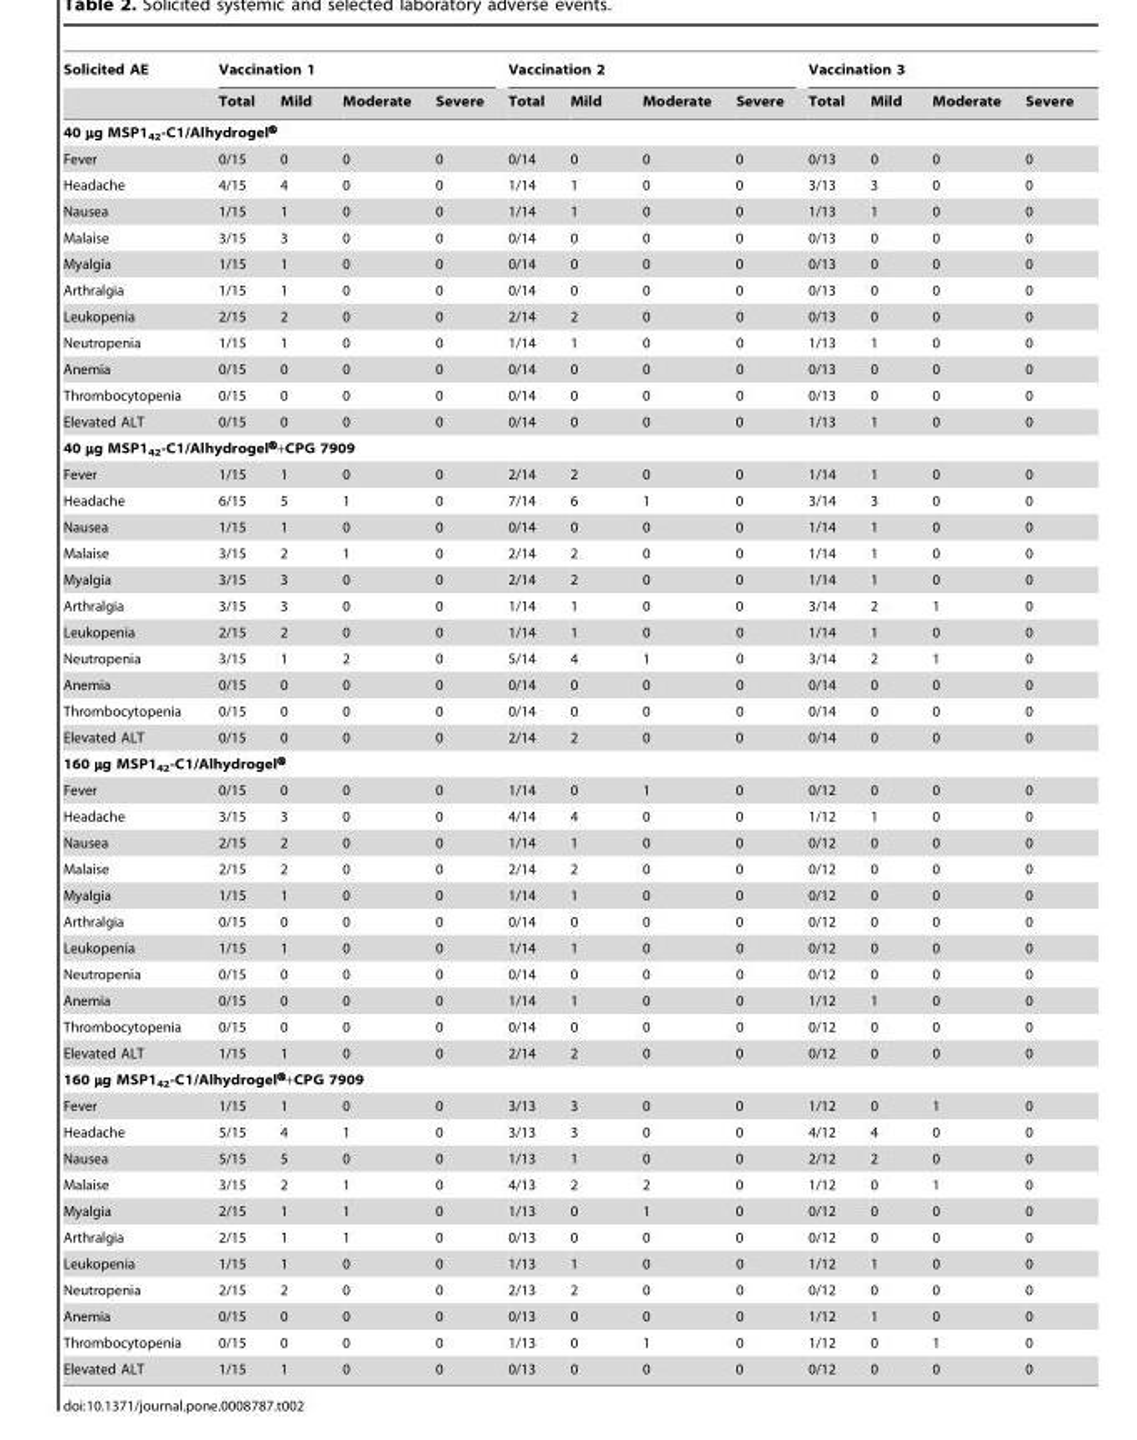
<table><thead><tr><td rowspan="2">Solicited AE</td><td colspan="4">Vaccination 1</td><td colspan="4">Vaccination 2</td><td colspan="4">Vaccination 3</td></tr><tr><td>Total</td><td>Mild</td><td>Moderate</td><td>Severe</td><td>Total</td><td>Mild</td><td>Moderate</td><td>Severe</td><td>Total</td><td>Mild</td><td>Moderate</td><td>Severe</td></tr></thead><tbody><tr><td colspan="13">40 µg MSP1<sub>42</sub>-C1/Alhydrogel®</td></tr><tr><td>Fever</td><td>0/15</td><td>0</td><td>0</td><td>0</td><td>0/14</td><td>0</td><td>0</td><td>0</td><td>0/13</td><td>0</td><td>0</td><td>0</td></tr><tr><td>Headache</td><td>4/15</td><td>4</td><td>0</td><td>0</td><td>1/14</td><td>1</td><td>0</td><td>0</td><td>3/13</td><td>3</td><td>0</td><td>0</td></tr><tr><td>Nausea</td><td>1/15</td><td>1</td><td>0</td><td>0</td><td>1/14</td><td>1</td><td>0</td><td>0</td><td>1/13</td><td>1</td><td>0</td><td>0</td></tr><tr><td>Malaise</td><td>3/15</td><td>3</td><td>0</td><td>0</td><td>0/14</td><td>0</td><td>0</td><td>0</td><td>0/13</td><td>0</td><td>0</td><td>0</td></tr><tr><td>Myalgia</td><td>1/15</td><td>1</td><td>0</td><td>0</td><td>0/14</td><td>0</td><td>0</td><td>0</td><td>0/13</td><td>0</td><td>0</td><td>0</td></tr><tr><td>Arthralgia</td><td>1/15</td><td>1</td><td>0</td><td>0</td><td>0/14</td><td>0</td><td>0</td><td>0</td><td>0/13</td><td>0</td><td>0</td><td>0</td></tr><tr><td>Leukopenia</td><td>2/15</td><td>2</td><td>0</td><td>0</td><td>2/14</td><td>2</td><td>0</td><td>0</td><td>0/13</td><td>0</td><td>0</td><td>0</td></tr><tr><td>Neutropenia</td><td>1/15</td><td>1</td><td>0</td><td>0</td><td>1/14</td><td>1</td><td>0</td><td>0</td><td>1/13</td><td>1</td><td>0</td><td>0</td></tr><tr><td>Anemia</td><td>0/15</td><td>0</td><td>0</td><td>0</td><td>0/14</td><td>0</td><td>0</td><td>0</td><td>0/13</td><td>0</td><td>0</td><td>0</td></tr><tr><td>Thrombocytopenia</td><td>0/15</td><td>0</td><td>0</td><td>0</td><td>0/14</td><td>0</td><td>0</td><td>0</td><td>0/13</td><td>0</td><td>0</td><td>0</td></tr><tr><td>Elevated ALT</td><td>0/15</td><td>0</td><td>0</td><td>0</td><td>0/14</td><td>0</td><td>0</td><td>0</td><td>1/13</td><td>1</td><td>0</td><td>0</td></tr><tr><td colspan="13">40 µg MSP1<sub>42</sub>-C1/Alhydrogel®+CPG 7909</td></tr><tr><td>Fever</td><td>1/15</td><td>1</td><td>0</td><td>0</td><td>2/14</td><td>2</td><td>0</td><td>0</td><td>1/14</td><td>1</td><td>0</td><td>0</td></tr><tr><td>Headache</td><td>6/15</td><td>5</td><td>1</td><td>0</td><td>7/14</td><td>6</td><td>1</td><td>0</td><td>3/14</td><td>3</td><td>0</td><td>0</td></tr><tr><td>Nausea</td><td>1/15</td><td>1</td><td>0</td><td>0</td><td>0/14</td><td>0</td><td>0</td><td>0</td><td>1/14</td><td>1</td><td>0</td><td>0</td></tr><tr><td>Malaise</td><td>3/15</td><td>2</td><td>1</td><td>0</td><td>2/14</td><td>2</td><td>0</td><td>0</td><td>1/14</td><td>1</td><td>0</td><td>0</td></tr><tr><td>Myalgia</td><td>3/15</td><td>3</td><td>0</td><td>0</td><td>2/14</td><td>2</td><td>0</td><td>0</td><td>1/14</td><td>1</td><td>0</td><td>0</td></tr><tr><td>Arthralgia</td><td>3/15</td><td>3</td><td>0</td><td>0</td><td>1/14</td><td>1</td><td>0</td><td>0</td><td>3/14</td><td>2</td><td>1</td><td>0</td></tr><tr><td>Leukopenia</td><td>2/15</td><td>2</td><td>0</td><td>0</td><td>1/14</td><td>1</td><td>0</td><td>0</td><td>1/14</td><td>1</td><td>0</td><td>0</td></tr><tr><td>Neutropenia</td><td>3/15</td><td>1</td><td>2</td><td>0</td><td>5/14</td><td>4</td><td>1</td><td>0</td><td>3/14</td><td>2</td><td>1</td><td>0</td></tr><tr><td>Anemia</td><td>0/15</td><td>0</td><td>0</td><td>0</td><td>0/14</td><td>0</td><td>0</td><td>0</td><td>0/14</td><td>0</td><td>0</td><td>0</td></tr><tr><td>Thrombocytopenia</td><td>0/15</td><td>0</td><td>0</td><td>0</td><td>0/14</td><td>0</td><td>0</td><td>0</td><td>0/14</td><td>0</td><td>0</td><td>0</td></tr><tr><td>Elevated ALT</td><td>0/15</td><td>0</td><td>0</td><td>0</td><td>2/14</td><td>2</td><td>0</td><td>0</td><td>0/14</td><td>0</td><td>0</td><td>0</td></tr><tr><td colspan="13">160 µg MSP1<sub>42</sub>-C1/Alhydrogel®</td></tr><tr><td>Fever</td><td>0/15</td><td>0</td><td>0</td><td>0</td><td>1/14</td><td>0</td><td>1</td><td>0</td><td>0/12</td><td>0</td><td>0</td><td>0</td></tr><tr><td>Headache</td><td>3/15</td><td>3</td><td>0</td><td>0</td><td>4/14</td><td>4</td><td>0</td><td>0</td><td>1/12</td><td>1</td><td>0</td><td>0</td></tr><tr><td>Nausea</td><td>2/15</td><td>2</td><td>0</td><td>0</td><td>1/14</td><td>1</td><td>0</td><td>0</td><td>0/12</td><td>0</td><td>0</td><td>0</td></tr><tr><td>Malaise</td><td>2/15</td><td>2</td><td>0</td><td>0</td><td>2/14</td><td>2</td><td>0</td><td>0</td><td>0/12</td><td>0</td><td>0</td><td>0</td></tr><tr><td>Myalgia</td><td>1/15</td><td>1</td><td>0</td><td>0</td><td>1/14</td><td>1</td><td>0</td><td>0</td><td>0/12</td><td>0</td><td>0</td><td>0</td></tr><tr><td>Arthralgia</td><td>0/15</td><td>0</td><td>0</td><td>0</td><td>0/14</td><td>0</td><td>0</td><td>0</td><td>0/12</td><td>0</td><td>0</td><td>0</td></tr><tr><td>Leukopenia</td><td>1/15</td><td>1</td><td>0</td><td>0</td><td>1/14</td><td>1</td><td>0</td><td>0</td><td>0/12</td><td>0</td><td>0</td><td>0</td></tr><tr><td>Neutropenia</td><td>0/15</td><td>0</td><td>0</td><td>0</td><td>0/14</td><td>0</td><td>0</td><td>0</td><td>0/12</td><td>0</td><td>0</td><td>0</td></tr><tr><td>Anemia</td><td>0/15</td><td>0</td><td>0</td><td>0</td><td>1/14</td><td>1</td><td>0</td><td>0</td><td>1/12</td><td>1</td><td>0</td><td>0</td></tr><tr><td>Thrombocytopenia</td><td>0/15</td><td>0</td><td>0</td><td>0</td><td>0/14</td><td>0</td><td>0</td><td>0</td><td>0/12</td><td>0</td><td>0</td><td>0</td></tr><tr><td>Elevated ALT</td><td>1/15</td><td>1</td><td>0</td><td>0</td><td>2/14</td><td>2</td><td>0</td><td>0</td><td>0/12</td><td>0</td><td>0</td><td>0</td></tr><tr><td colspan="13">160 µg MSP1<sub>42</sub>-C1/Alhydrogel®+CPG 7909</td></tr><tr><td>Fever</td><td>1/15</td><td>1</td><td>0</td><td>0</td><td>3/13</td><td>3</td><td>0</td><td>0</td><td>1/12</td><td>0</td><td>1</td><td>0</td></tr><tr><td>Headache</td><td>5/15</td><td>4</td><td>1</td><td>0</td><td>3/13</td><td>3</td><td>0</td><td>0</td><td>4/12</td><td>4</td><td>0</td><td>0</td></tr><tr><td>Nausea</td><td>5/15</td><td>5</td><td>0</td><td>0</td><td>1/13</td><td>1</td><td>0</td><td>0</td><td>2/12</td><td>2</td><td>0</td><td>0</td></tr><tr><td>Malaise</td><td>3/15</td><td>2</td><td>1</td><td>0</td><td>4/13</td><td>2</td><td>2</td><td>0</td><td>1/12</td><td>0</td><td>1</td><td>0</td></tr><tr><td>Myalgia</td><td>2/15</td><td>1</td><td>1</td><td>0</td><td>1/13</td><td>0</td><td>1</td><td>0</td><td>0/12</td><td>0</td><td>0</td><td>0</td></tr><tr><td>Arthralgia</td><td>2/15</td><td>1</td><td>1</td><td>0</td><td>0/13</td><td>0</td><td>0</td><td>0</td><td>0/12</td><td>0</td><td>0</td><td>0</td></tr><tr><td>Leukopenia</td><td>1/15</td><td>1</td><td>0</td><td>0</td><td>1/13</td><td>1</td><td>0</td><td>0</td><td>1/12</td><td>1</td><td>0</td><td>0</td></tr><tr><td>Neutropenia</td><td>2/15</td><td>2</td><td>0</td><td>0</td><td>2/13</td><td>2</td><td>0</td><td>0</td><td>0/12</td><td>0</td><td>0</td><td>0</td></tr><tr><td>Anemia</td><td>0/15</td><td>0</td><td>0</td><td>0</td><td>0/13</td><td>0</td><td>0</td><td>0</td><td>1/12</td><td>1</td><td>0</td><td>0</td></tr><tr><td>Thrombocytopenia</td><td>0/15</td><td>0</td><td>0</td><td>0</td><td>1/13</td><td>0</td><td>1</td><td>0</td><td>1/12</td><td>0</td><td>1</td><td>0</td></tr><tr><td>Elevated ALT</td><td>1/15</td><td>1</td><td>0</td><td>0</td><td>0/13</td><td>0</td><td>0</td><td>0</td><td>0/12</td><td>0</td><td>0</td><td>0</td></tr></tbody></table>